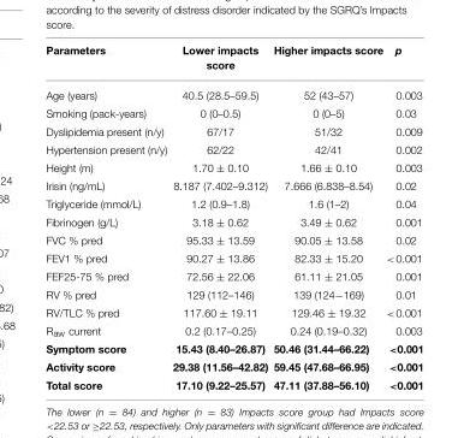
<table><thead><tr><td>Parameters</td><td>Lower impacts score</td><td>Higher impacts score</td><td>p</td></tr></thead><tbody><tr><td>Age (years)</td><td>40.5 (28.5–59.5)</td><td>52 (43–57)</td><td>0.003</td></tr><tr><td>Smoking (pack-years)</td><td>0 (0–0.5)</td><td>0 (0–5)</td><td>0.03</td></tr><tr><td>Dyslipidemia present (n/y)</td><td>67/17</td><td>51/32</td><td>0.009</td></tr><tr><td>Hypertension present (n/y)</td><td>62/22</td><td>42/41</td><td>0.002</td></tr><tr><td>Height (m)</td><td>1.70 ± 0.10</td><td>1.66 ± 0.10</td><td>0.003</td></tr><tr><td>Irisin (ng/mL)</td><td>8.187 (7.402–9.312)</td><td>7.666 (6.838–8.54)</td><td>0.02</td></tr><tr><td>Triglyceride (mmol/L)</td><td>1.2 (0.9–1.8)</td><td>1.6 (1–2)</td><td>0.04</td></tr><tr><td>Fibrinogen (g/L)</td><td>3.18 ± 0.62</td><td>3.49 ± 0.62</td><td>0.001</td></tr><tr><td>FVC % pred</td><td>95.33 ± 13.59</td><td>90.05 ± 13.58</td><td>0.02</td></tr><tr><td>FEV1 % pred</td><td>90.27 ± 13.86</td><td>82.33 ± 15.20</td><td>&lt;0.001</td></tr><tr><td>FEF25-75 % pred</td><td>72.56 ± 22.06</td><td>61.11 ± 21.05</td><td>0.001</td></tr><tr><td>RV % pred</td><td>129 (112–146)</td><td>139 (124−169)</td><td>0.01</td></tr><tr><td>RV/TLC % pred</td><td>117.60 ± 19.11</td><td>129.46 ± 19.32</td><td>&lt;0.001</td></tr><tr><td>R<sub>aw</sub> current</td><td>0.2 (0.17–0.25)</td><td>0.24 (0.19–0.32)</td><td>0.003</td></tr><tr><td>Symptom score</td><td>15.43 (8.40–26.87)</td><td>50.46 (31.44–66.22)</td><td>&lt;0.001</td></tr><tr><td>Activity score</td><td>29.38 (11.56–42.82)</td><td>59.45 (47.68–66.95)</td><td>&lt;0.001</td></tr><tr><td>Total score</td><td>17.10 (9.22–25.57)</td><td>47.11 (37.88–56.10)</td><td>&lt;0.001</td></tr></tbody></table>